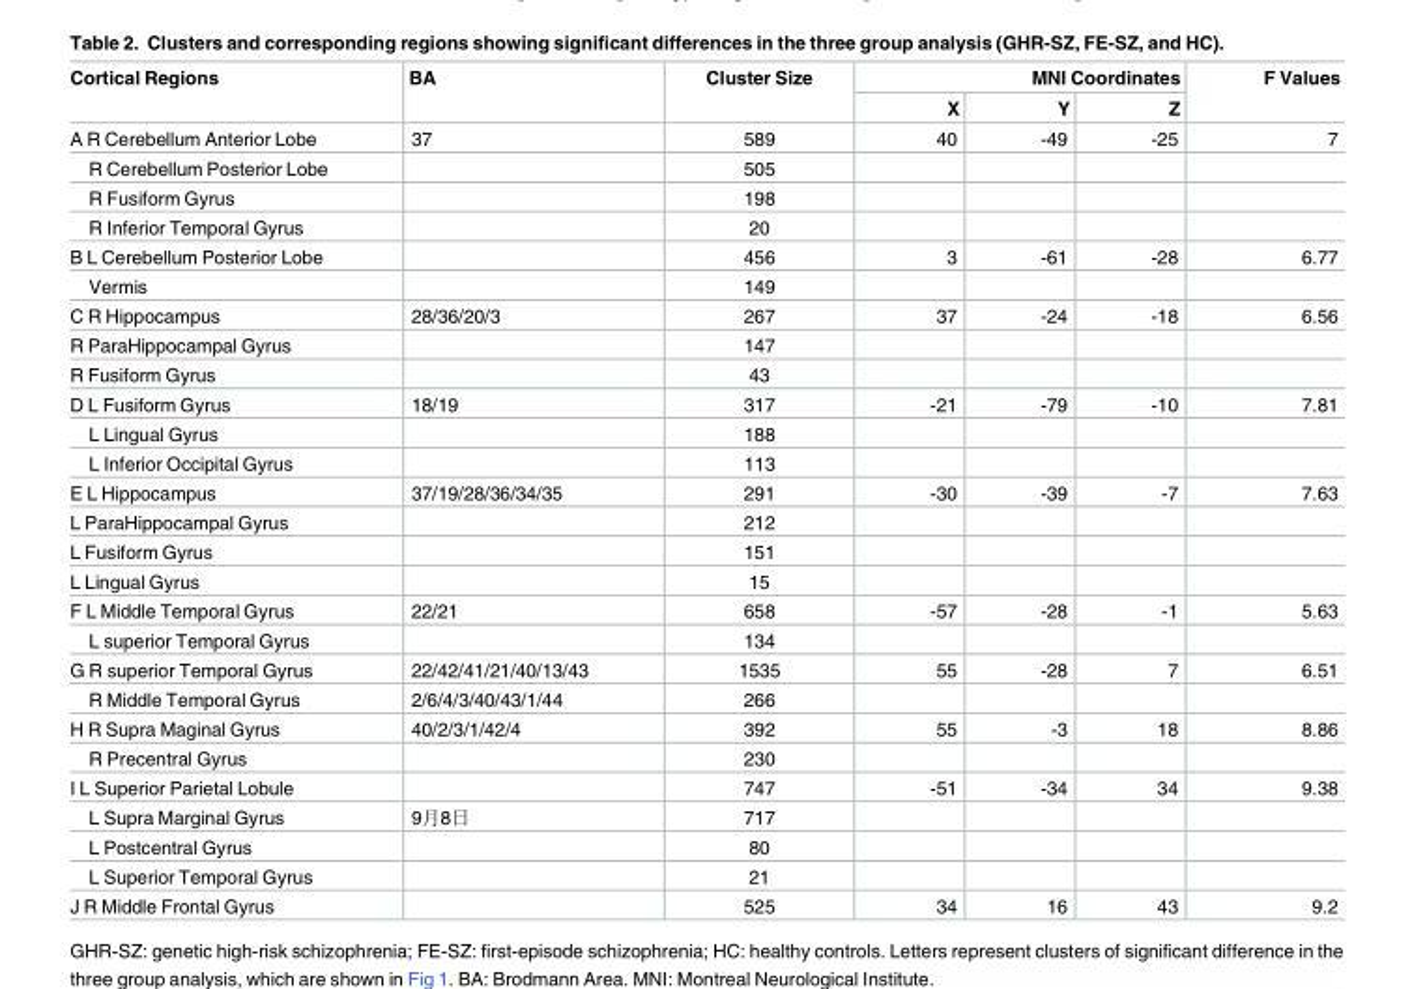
<table><thead><tr><td rowspan="2">Cortical Regions</td><td rowspan="2">BA</td><td rowspan="2">Cluster Size</td><td colspan="3">MNI Coordinates</td><td rowspan="2">F Values</td></tr><tr><td>X</td><td>Y</td><td>Z</td></tr></thead><tbody><tr><td>A R Cerebellum Anterior Lobe</td><td>37</td><td>589</td><td>40</td><td>-49</td><td>-25</td><td>7</td></tr><tr><td>R Cerebellum Posterior Lobe</td><td></td><td>505</td><td></td><td></td><td></td><td></td></tr><tr><td>R Fusiform Gyrus</td><td></td><td>198</td><td></td><td></td><td></td><td></td></tr><tr><td>R Inferior Temporal Gyrus</td><td></td><td>20</td><td></td><td></td><td></td><td></td></tr><tr><td>B L Cerebellum Posterior Lobe</td><td></td><td>456</td><td>3</td><td>-61</td><td>-28</td><td>6.77</td></tr><tr><td>Vermis</td><td></td><td>149</td><td></td><td></td><td></td><td></td></tr><tr><td>C R Hippocampus</td><td>28/36/20/3</td><td>267</td><td>37</td><td>-24</td><td>-18</td><td>6.56</td></tr><tr><td>R ParaHippocampal Gyrus</td><td></td><td>147</td><td></td><td></td><td></td><td></td></tr><tr><td>R Fusiform Gyrus</td><td></td><td>43</td><td></td><td></td><td></td><td></td></tr><tr><td>D L Fusiform Gyrus</td><td>18/19</td><td>317</td><td>-21</td><td>-79</td><td>-10</td><td>7.81</td></tr><tr><td>L Lingual Gyrus</td><td></td><td>188</td><td></td><td></td><td></td><td></td></tr><tr><td>L Inferior Occipital Gyrus</td><td></td><td>113</td><td></td><td></td><td></td><td></td></tr><tr><td>E L Hippocampus</td><td>37/19/28/36/34/35</td><td>291</td><td>-30</td><td>-39</td><td>-7</td><td>7.63</td></tr><tr><td>L ParaHippocampal Gyrus</td><td></td><td>212</td><td></td><td></td><td></td><td></td></tr><tr><td>L Fusiform Gyrus</td><td></td><td>151</td><td></td><td></td><td></td><td></td></tr><tr><td>L Lingual Gyrus</td><td></td><td>15</td><td></td><td></td><td></td><td></td></tr><tr><td>F L Middle Temporal Gyrus</td><td>22/21</td><td>658</td><td>-57</td><td>-28</td><td>-1</td><td>5.63</td></tr><tr><td>L superior Temporal Gyrus</td><td></td><td>134</td><td></td><td></td><td></td><td></td></tr><tr><td>G R superior Temporal Gyrus</td><td>22/42/41/21/40/13/43</td><td>1535</td><td>55</td><td>-28</td><td>7</td><td>6.51</td></tr><tr><td>R Middle Temporal Gyrus</td><td>2/6/4/3/40/43/1/44</td><td>266</td><td></td><td></td><td></td><td></td></tr><tr><td>H R Supra Maginal Gyrus</td><td>40/2/3/1/42/4</td><td>392</td><td>55</td><td>-3</td><td>18</td><td>8.86</td></tr><tr><td>R Precentral Gyrus</td><td></td><td>230</td><td></td><td></td><td></td><td></td></tr><tr><td>I L Superior Parietal Lobule</td><td></td><td>747</td><td>-51</td><td>-34</td><td>34</td><td>9.38</td></tr><tr><td>L Supra Marginal Gyrus</td><td>9月8日</td><td>717</td><td></td><td></td><td></td><td></td></tr><tr><td>L Postcentral Gyrus</td><td></td><td>80</td><td></td><td></td><td></td><td></td></tr><tr><td>L Superior Temporal Gyrus</td><td></td><td>21</td><td></td><td></td><td></td><td></td></tr><tr><td>J R Middle Frontal Gyrus</td><td></td><td>525</td><td>34</td><td>16</td><td>43</td><td>9.2</td></tr></tbody></table>